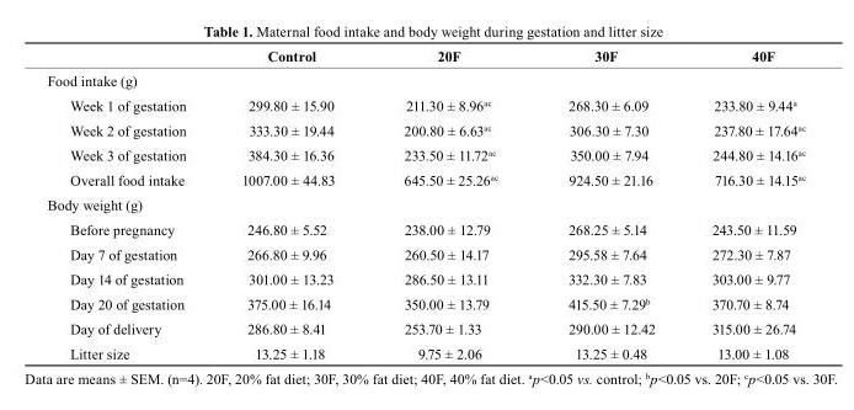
<table><thead><tr><td></td><td>control</td><td>20F</td><td>30F</td><td>40F</td></tr></thead><tbody><tr><td colspan="5">Food intake (g)</td></tr><tr><td>Week 1 of gestation</td><td>299.80 ± 15.90</td><td>211.30 ± 8.96<sup>ac</sup></td><td>268.30 ± 6.09</td><td>233.80 ± 9.44<sup>a</sup></td></tr><tr><td>Week 2 of gestation</td><td>333.30 ± 19.44</td><td>200.80 ± 6.63<sup>ac</sup></td><td>306.30 ± 7.30</td><td>237.80 ± 17.64<sup>ac</sup></td></tr><tr><td>Week 3 of gestation</td><td>384.30 ± 16.36</td><td>233.50 ± 11.72<sup>ac</sup></td><td>350.00 ± 7.94</td><td>244.80 ± 14.16<sup>ac</sup></td></tr><tr><td>Overall food intake</td><td>1007.00 ± 44.83</td><td>645.50 ± 25.26<sup>ac</sup></td><td>924.50 ± 21.16</td><td>716.30 ± 14.15<sup>ac</sup></td></tr><tr><td colspan="5">Body weight (g)</td></tr><tr><td>Before pregnancy</td><td>246.80 ± 5.52</td><td>238.00 ± 12.79</td><td>268.25 ± 5.14</td><td>243.50 ± 11.59</td></tr><tr><td>Day 7 of gestation</td><td>266.80 ± 9.96</td><td>260.50 ± 14.17</td><td>295.58 ± 7.64</td><td>272.30 ± 7.87</td></tr><tr><td>Day 14 of gestation</td><td>301.00 ± 13.23</td><td>286.50 ± 13.11</td><td>332.30 ± 7.83</td><td>303.00 ± 9.77</td></tr><tr><td>Day 20 of gestation</td><td>375.00 ± 16.14</td><td>350.00 ± 13.79</td><td>415.50 ± 7.29<sup>b</sup></td><td>370.70 ± 8.74</td></tr><tr><td>Day of delivery</td><td>286.80 ± 8.41</td><td>253.70 ± 1.33</td><td>290.00 ± 12.42</td><td>315.00 ± 26.74</td></tr><tr><td>Litter size</td><td>13.25 ± 1.18</td><td>9.75 ± 2.06</td><td>13.25 ± 0.48</td><td>13.00 ± 1.08</td></tr></tbody></table>